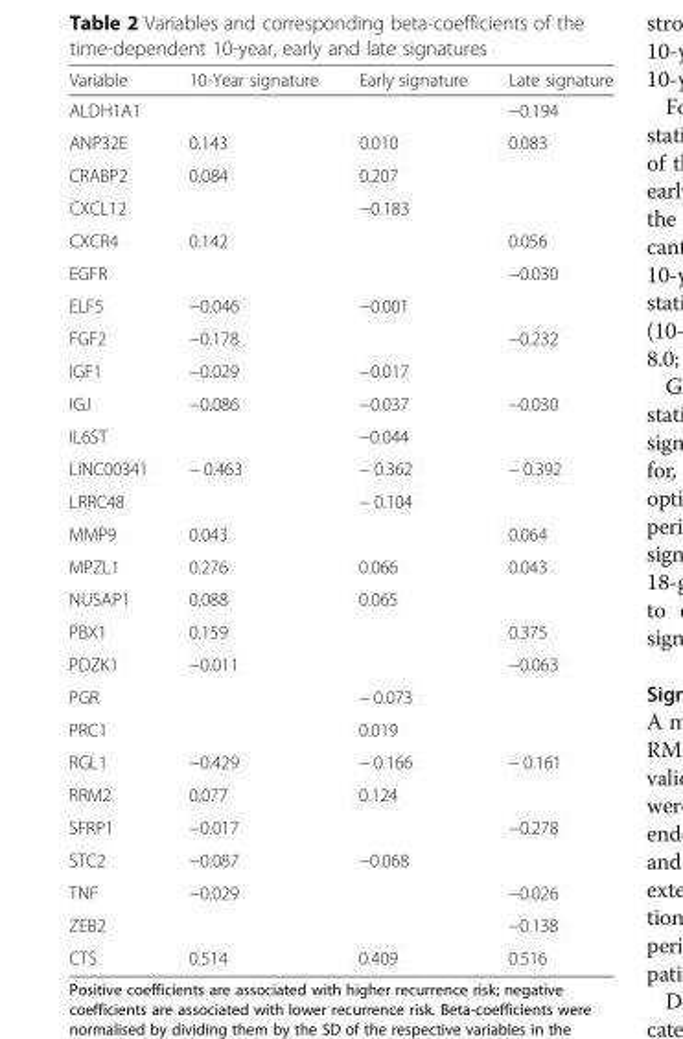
<table><thead><tr><td>Variable</td><td>10-Year signature</td><td>Early signature</td><td>Late signature</td></tr></thead><tbody><tr><td>ALDH1A1</td><td></td><td></td><td>−0.194</td></tr><tr><td>ANP32E</td><td>0.143</td><td>0.010</td><td>0.083</td></tr><tr><td>CRABP2</td><td>0.084</td><td>0.207</td><td></td></tr><tr><td>CXCL12</td><td></td><td>−0.183</td><td></td></tr><tr><td>CXCR4</td><td>0.142</td><td></td><td>0.056</td></tr><tr><td>EGFR</td><td></td><td></td><td>−0.030</td></tr><tr><td>ELF5</td><td>−0.046</td><td>−0.001</td><td></td></tr><tr><td>FGF2</td><td>−0.178</td><td></td><td>−0.232</td></tr><tr><td>IGF1</td><td>−0.029</td><td>−0.017</td><td></td></tr><tr><td>IGJ</td><td>−0.086</td><td>−0.037</td><td>−0.030</td></tr><tr><td>IL6ST</td><td></td><td>−0.044</td><td></td></tr><tr><td>LINC00341</td><td>− 0.463</td><td>− 0.362</td><td>− 0.392</td></tr><tr><td>LRRC48</td><td></td><td>− 0.104</td><td></td></tr><tr><td>MMP9</td><td>0.043</td><td></td><td>0.064</td></tr><tr><td>MPZL1</td><td>0.276</td><td>0.066</td><td>0.043</td></tr><tr><td>NUSAP1</td><td>0.088</td><td>0.065</td><td></td></tr><tr><td>PBX1</td><td>0.159</td><td></td><td>0.375</td></tr><tr><td>PDZK1</td><td>−0.011</td><td></td><td>−0.063</td></tr><tr><td>PGR</td><td></td><td>− 0.073</td><td></td></tr><tr><td>PRC1</td><td></td><td>0.019</td><td></td></tr><tr><td>RGL1</td><td>−0.429</td><td>− 0.166</td><td>− 0.161</td></tr><tr><td>RRM2</td><td>0.077</td><td>0.124</td><td></td></tr><tr><td>SFRP1</td><td>−0.017</td><td></td><td>−0.278</td></tr><tr><td>STC2</td><td>−0.087</td><td>−0.068</td><td></td></tr><tr><td>TNF</td><td>−0.029</td><td></td><td>−0.026</td></tr><tr><td>ZEB2</td><td></td><td></td><td>−0.138</td></tr><tr><td>CTS</td><td>0.514</td><td>0.409</td><td>0.516</td></tr></tbody></table>